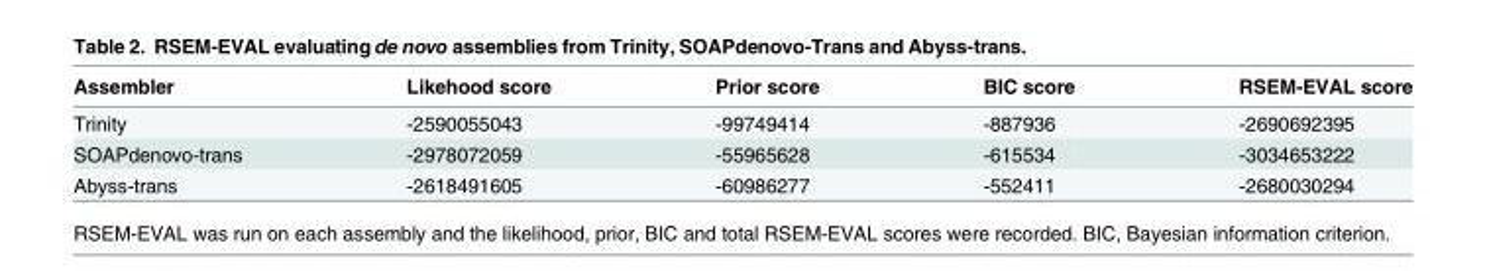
<table><thead><tr><td>Assembler</td><td>Likehood score</td><td>Prior score</td><td>BIC score</td><td>RSEM-EVAL score</td></tr></thead><tbody><tr><td>Trinity</td><td>-2590055043</td><td>-99749414</td><td>-887936</td><td>-2690692395</td></tr><tr><td>SOAPdenovo-trans</td><td>-2978072059</td><td>-55965628</td><td>-615534</td><td>-3034653222</td></tr><tr><td>Abyss-trans</td><td>-2618491605</td><td>-60986277</td><td>-552411</td><td>-2680030294</td></tr></tbody></table>